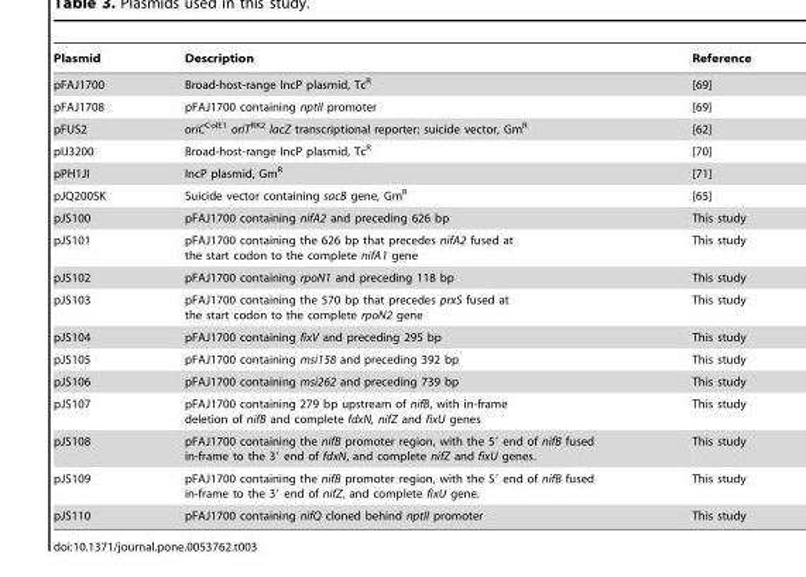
<table><thead><tr><td>Plasmid</td><td>Description</td><td>Reference</td></tr></thead><tbody><tr><td>pFAJ1700</td><td>Broad-host-range IncP plasmid, Tc<sup>R</sup></td><td>[69]</td></tr><tr><td>pFAJ1708</td><td>pFAJ1700 containing nptII promoter</td><td>[69]</td></tr><tr><td>pFUS2</td><td>oriC<sup>ColE1</sup> oriT<sup>RK2</sup> lacZ transcriptional reporter; suicide vector, Gm<sup>R</sup></td><td>[62]</td></tr><tr><td>pIJ3200</td><td>Broad-host-range IncP plasmid, Tc<sup>R</sup></td><td>[70]</td></tr><tr><td>pPH1JI</td><td>IncP plasmid, Gm<sup>R</sup></td><td>[71]</td></tr><tr><td>pJQ200SK</td><td>Suicide vector containing sacB gene, Gm<sup>R</sup></td><td>[65]</td></tr><tr><td>pJS100</td><td>pFAJ1700 containing nifA2 and preceding 626 bp</td><td>This study</td></tr><tr><td>pJS101</td><td>pFAJ1700 containing the 626 bp that precedes nifA2 fused at the start codon to the complete nifA1 gene</td><td>This study</td></tr><tr><td>pJS102</td><td>pFAJ1700 containing rpoN1 and preceding 118 bp</td><td>This study</td></tr><tr><td>pJS103</td><td>pFAJ1700 containing the 570 bp that precedes prxS fused at the start codon to the complete rpoN2 gene</td><td>This study</td></tr><tr><td>pJS104</td><td>pFAJ1700 containing fixV and preceding 295 bp</td><td>This study</td></tr><tr><td>pJS105</td><td>pFAJ1700 containing msi158 and preceding 392 bp</td><td>This study</td></tr><tr><td>pJS106</td><td>pFAJ1700 containing msi262 and preceding 739 bp</td><td>This study</td></tr><tr><td>pJS107</td><td>pFAJ1700 containing 279 bp upstream of nifB, with in-frame deletion of nifB and complete fdxN, nifZ and fixU genes</td><td>This study</td></tr><tr><td>pJS108</td><td>pFAJ1700 containing the nifB promoter region, with the 5′ end of nifB fused in-frame to the 3′ end of fdxN, and complete nifZ and fixU genes.</td><td>This study</td></tr><tr><td>pJS109</td><td>pFAJ1700 containing the nifB promoter region, with the 5′ end of nifB fused in-frame to the 3′ end of nifZ, and complete fixU gene.</td><td>This study</td></tr><tr><td>pJS110</td><td>pFAJ1700 containing nifQ cloned behind nptII promoter</td><td>This study</td></tr></tbody></table>